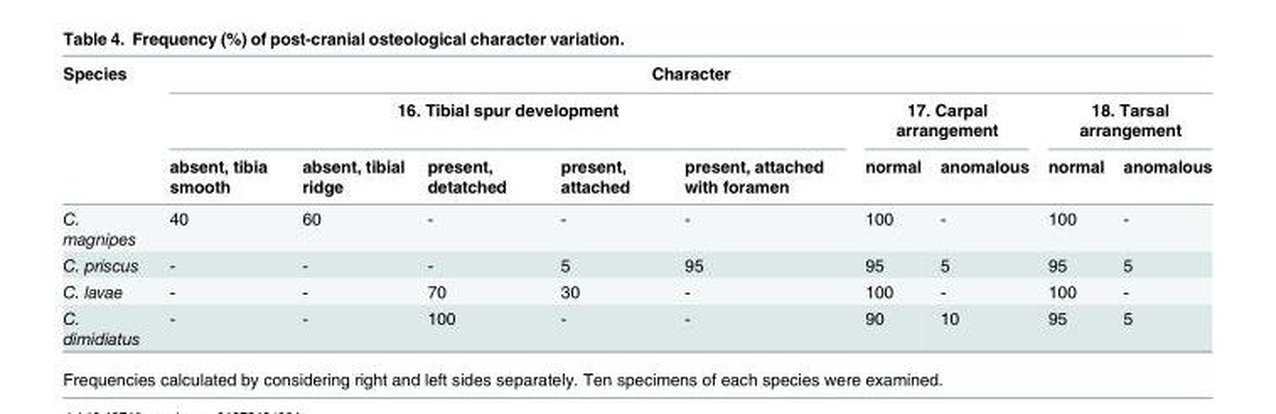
<table><thead><tr><td rowspan="3">Species</td><td colspan="9">Character</td></tr><tr><td colspan="5">16. Tibial spur development</td><td colspan="2">17. Carpal arrangement</td><td colspan="2">18. Tarsal arrangement</td></tr><tr><td>absent, tibia smooth</td><td>absent, tibial ridge</td><td>present, detatched</td><td>present, attached</td><td>present, attached with foramen</td><td>normal</td><td>anomalous</td><td>normal</td><td>anomalous</td></tr></thead><tbody><tr><td>C. magnipes</td><td>40</td><td>60</td><td>-</td><td>-</td><td>-</td><td>100</td><td>-</td><td>100</td><td>-</td></tr><tr><td>C. priscus</td><td>-</td><td>-</td><td>-</td><td>5</td><td>95</td><td>95</td><td>5</td><td>95</td><td>5</td></tr><tr><td>C. lavae</td><td>-</td><td>-</td><td>70</td><td>30</td><td>-</td><td>100</td><td>-</td><td>100</td><td>-</td></tr><tr><td>C. dimidiatus</td><td>-</td><td>-</td><td>100</td><td>-</td><td>-</td><td>90</td><td>10</td><td>95</td><td>5</td></tr></tbody></table>